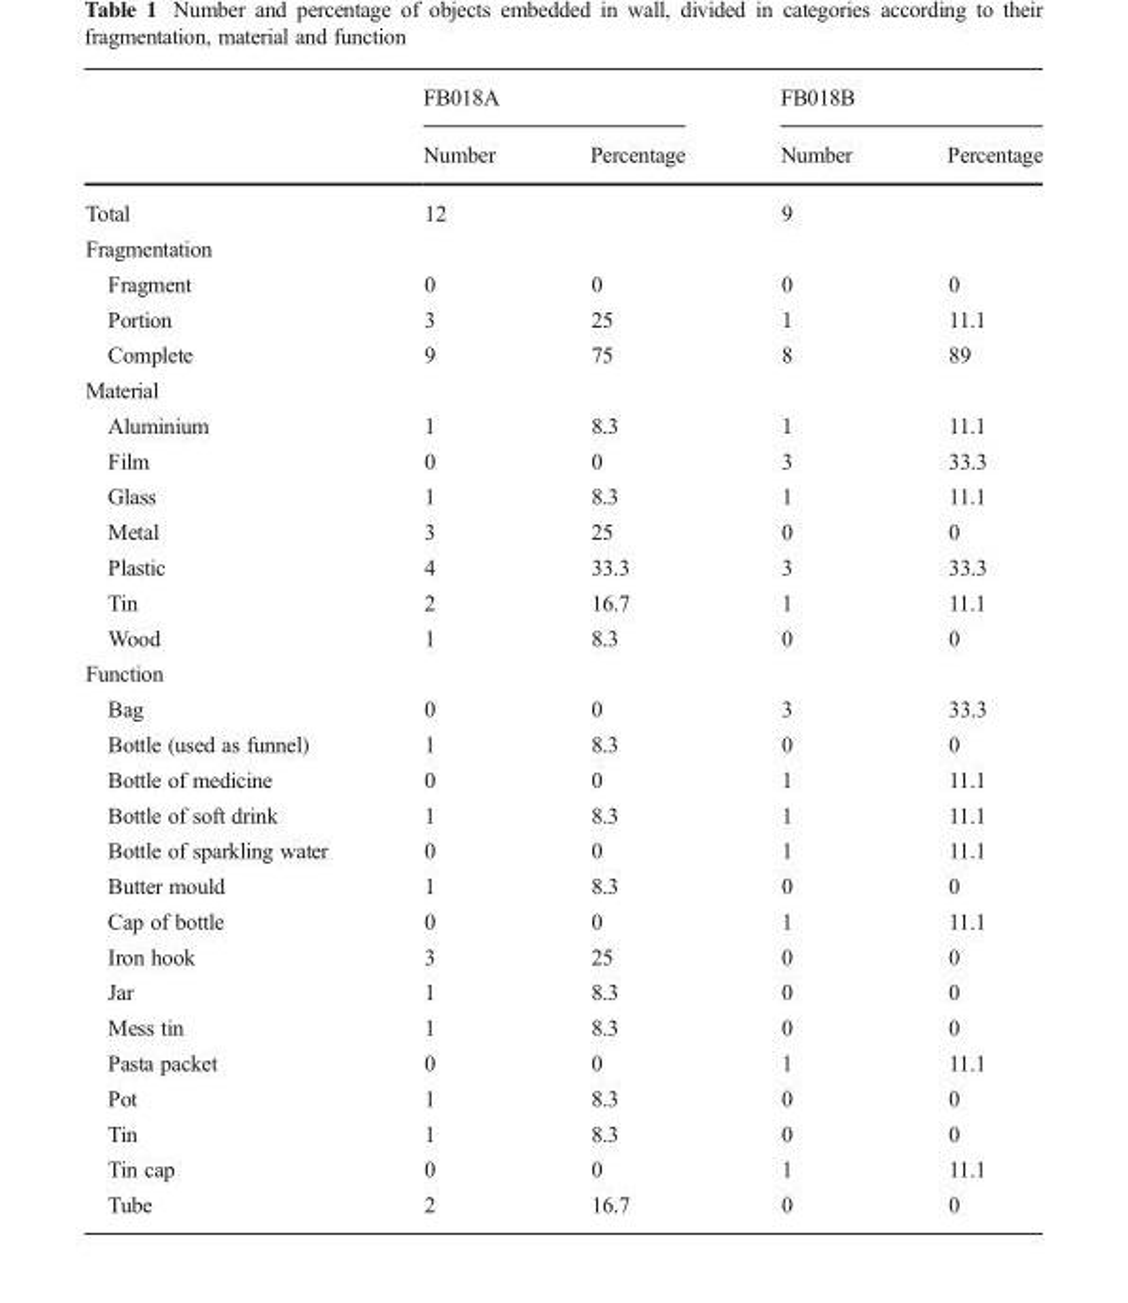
<table><thead><tr><td rowspan="2"></td><td colspan="2">FB018A</td><td colspan="2">FB018B</td></tr><tr><td>Number</td><td>Percentage</td><td>Number</td><td>Percentage</td></tr></thead><tbody><tr><td>Total</td><td>12</td><td></td><td>9</td><td></td></tr><tr><td colspan="5">Fragmentation</td></tr><tr><td>Fragment</td><td>0</td><td>0</td><td>0</td><td>0</td></tr><tr><td>Portion</td><td>3</td><td>25</td><td>1</td><td>11.1</td></tr><tr><td>Complete</td><td>9</td><td>75</td><td>8</td><td>89</td></tr><tr><td colspan="5">Material</td></tr><tr><td>Aluminium</td><td>1</td><td>8.3</td><td>1</td><td>11.1</td></tr><tr><td>Film</td><td>0</td><td>0</td><td>3</td><td>33.3</td></tr><tr><td>Glass</td><td>1</td><td>8.3</td><td>1</td><td>11.1</td></tr><tr><td>Metal</td><td>3</td><td>25</td><td>0</td><td>0</td></tr><tr><td>Plastic</td><td>4</td><td>33.3</td><td>3</td><td>33.3</td></tr><tr><td>Tin</td><td>2</td><td>16.7</td><td>1</td><td>11.1</td></tr><tr><td>Wood</td><td>1</td><td>8.3</td><td>0</td><td>0</td></tr><tr><td colspan="5">Function</td></tr><tr><td>Bag</td><td>0</td><td>0</td><td>3</td><td>33.3</td></tr><tr><td>Bottle (used as funnel)</td><td>1</td><td>8.3</td><td>0</td><td>0</td></tr><tr><td>Bottle of medicine</td><td>0</td><td>0</td><td>1</td><td>11.1</td></tr><tr><td>Bottle of soft drink</td><td>1</td><td>8.3</td><td>1</td><td>11.1</td></tr><tr><td>Bottle of sparkling water</td><td>0</td><td>0</td><td>1</td><td>11.1</td></tr><tr><td>Butter mould</td><td>1</td><td>8.3</td><td>0</td><td>0</td></tr><tr><td>Cap of bottle</td><td>0</td><td>0</td><td>1</td><td>11.1</td></tr><tr><td>Iron hook</td><td>3</td><td>25</td><td>0</td><td>0</td></tr><tr><td>Jar</td><td>1</td><td>8.3</td><td>0</td><td>0</td></tr><tr><td>Mess tin</td><td>1</td><td>8.3</td><td>0</td><td>0</td></tr><tr><td>Pasta packet</td><td>0</td><td>0</td><td>1</td><td>11.1</td></tr><tr><td>Pot</td><td>1</td><td>8.3</td><td>0</td><td>0</td></tr><tr><td>Tin</td><td>1</td><td>8.3</td><td>0</td><td>0</td></tr><tr><td>Tin cap</td><td>0</td><td>0</td><td>1</td><td>11.1</td></tr><tr><td>Tube</td><td>2</td><td>16.7</td><td>0</td><td>0</td></tr></tbody></table>